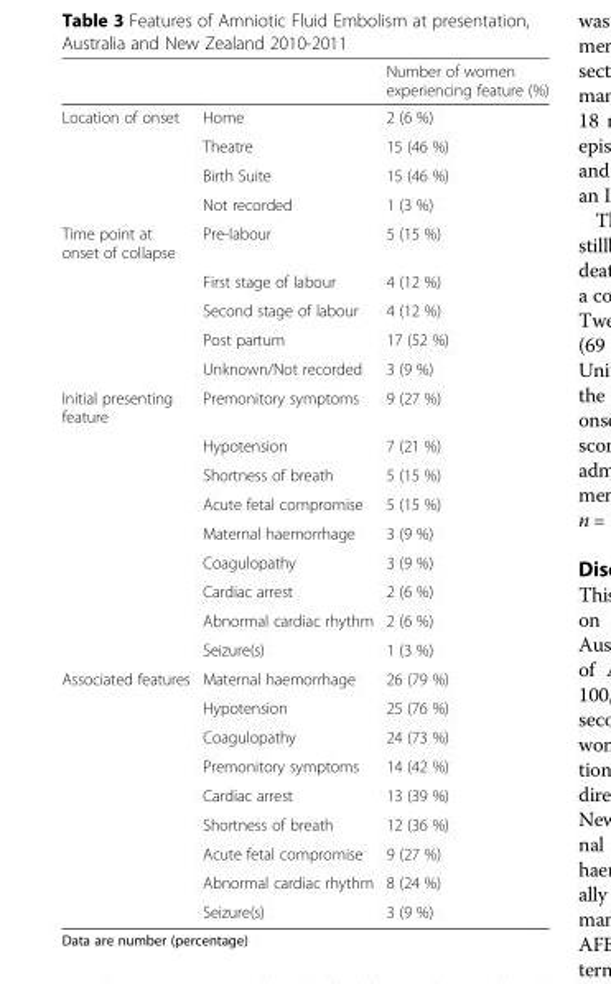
<table><thead><tr><td></td><td></td><td>Number of women experiencing feature (%)</td></tr></thead><tbody><tr><td rowspan="4">Location of onset</td><td>Home</td><td>2 (6 %)</td></tr><tr><td>Theatre</td><td>15 (46 %)</td></tr><tr><td>Birth Suite</td><td>15 (46 %)</td></tr><tr><td>Not recorded</td><td>1 (3 %)</td></tr><tr><td rowspan="5">Time point at onset of collapse</td><td>Pre-labour</td><td>5 (15 %)</td></tr><tr><td>First stage of labour</td><td>4 (12 %)</td></tr><tr><td>Second stage of labour</td><td>4 (12 %)</td></tr><tr><td>Post partum</td><td>17 (52 %)</td></tr><tr><td>Unknown/Not recorded</td><td>3 (9 %)</td></tr><tr><td rowspan="9">Initial presenting feature</td><td>Premonitory symptoms</td><td>9 (27 %)</td></tr><tr><td>Hypotension</td><td>7 (21 %)</td></tr><tr><td>Shortness of breath</td><td>5 (15 %)</td></tr><tr><td>Acute fetal compromise</td><td>5 (15 %)</td></tr><tr><td>Maternal haemorrhage</td><td>3 (9 %)</td></tr><tr><td>Coagulopathy</td><td>3 (9 %)</td></tr><tr><td>Cardiac arrest</td><td>2 (6 %)</td></tr><tr><td>Abnormal cardiac rhythm</td><td>2 (6 %)</td></tr><tr><td>Seizure(s)</td><td>1 (3 %)</td></tr><tr><td rowspan="9">Associated features</td><td>Maternal haemorrhage</td><td>26 (79 %)</td></tr><tr><td>Hypotension</td><td>25 (76 %)</td></tr><tr><td>Coagulopathy</td><td>24 (73 %)</td></tr><tr><td>Premonitory symptoms</td><td>14 (42 %)</td></tr><tr><td>Cardiac arrest</td><td>13 (39 %)</td></tr><tr><td>Shortness of breath</td><td>12 (36 %)</td></tr><tr><td>Acute fetal compromise</td><td>9 (27 %)</td></tr><tr><td>Abnormal cardiac rhythm</td><td>8 (24 %)</td></tr><tr><td>Seizure(s)</td><td>3 (9 %)</td></tr></tbody></table>